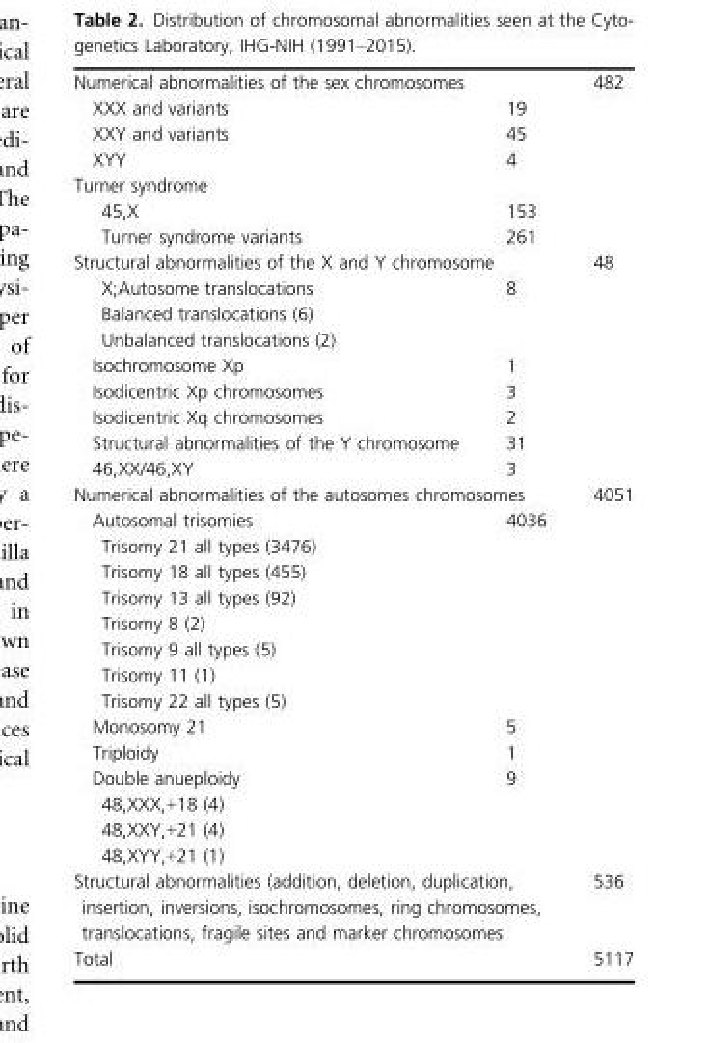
<table><tbody><tr><td colspan="2">Numerical abnormalities of the sex chromosomes</td><td>482</td></tr><tr><td>XXX and variants</td><td>19</td><td></td></tr><tr><td>XXY and variants</td><td>45</td><td></td></tr><tr><td>XYY</td><td>4</td><td></td></tr><tr><td colspan="3">Turner syndrome</td></tr><tr><td>45,X</td><td>153</td><td></td></tr><tr><td>Turner syndrome variants</td><td>261</td><td></td></tr><tr><td colspan="2">Structural abnormalities of the X and Y chromosome</td><td>48</td></tr><tr><td>X;Autosome translocations</td><td>8</td><td></td></tr><tr><td colspan="3">Balanced translocations (6)</td></tr><tr><td colspan="3">Unbalanced translocations (2)</td></tr><tr><td>Isochromosome Xp</td><td>1</td><td></td></tr><tr><td>Isodicentric Xp chromosomes</td><td>3</td><td></td></tr><tr><td>Isodicentric Xq chromosomes</td><td>2</td><td></td></tr><tr><td>Structural abnormalities of the Y chromosome</td><td>31</td><td></td></tr><tr><td>46,XX/46,XY</td><td>3</td><td></td></tr><tr><td colspan="2">Numerical abnormalities of the autosomes chromosomes</td><td>4051</td></tr><tr><td>Autosomal trisomies</td><td>4036</td><td></td></tr><tr><td colspan="3">Trisomy 21 all types (3476)</td></tr><tr><td colspan="3">Trisomy 18 all types (455)</td></tr><tr><td colspan="3">Trisomy 13 all types (92)</td></tr><tr><td colspan="3">Trisomy 8 (2)</td></tr><tr><td colspan="3">Trisomy 9 all types (5)</td></tr><tr><td colspan="3">Trisomy 11 (1)</td></tr><tr><td colspan="3">Trisomy 22 all types (5)</td></tr><tr><td>Monosomy 21</td><td>5</td><td></td></tr><tr><td>Triploidy</td><td>1</td><td></td></tr><tr><td>Double anueploidy</td><td>9</td><td></td></tr><tr><td colspan="3">48,XXX,+18 (4)</td></tr><tr><td colspan="3">48,XXY,+21 (4)</td></tr><tr><td colspan="3">48,XYY,+21 (1)</td></tr><tr><td colspan="2">Structural abnormalities (addition, deletion, duplication, insertion, inversions, isochromosomes, ring chromosomes, translocations, fragile sites and marker chromosomes</td><td>536</td></tr><tr><td colspan="2">Total</td><td>5117</td></tr></tbody></table>